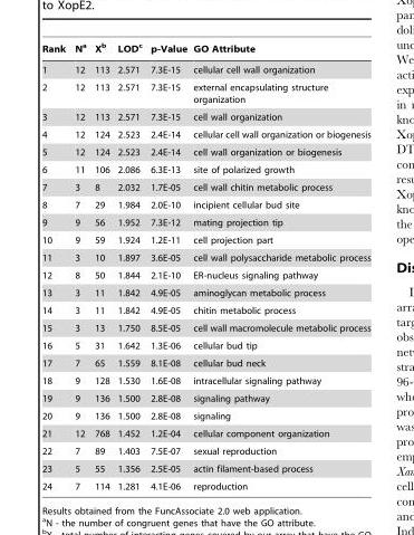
<table><thead><tr><td>Rank</td><td>N<sup>a</sup></td><td>X<sup>b</sup></td><td>LOD<sup>c</sup></td><td>p-Value</td><td>GO Attribute</td></tr></thead><tbody><tr><td>1</td><td>12</td><td>113</td><td>2.571</td><td>7.3E-15</td><td>cellular cell wall organization</td></tr><tr><td>2</td><td>12</td><td>113</td><td>2.571</td><td>7.3E-15</td><td>external encapsulating structure organization</td></tr><tr><td>3</td><td>12</td><td>113</td><td>2.571</td><td>7.3E-15</td><td>cell wall organization</td></tr><tr><td>4</td><td>12</td><td>124</td><td>2.523</td><td>2.4E-14</td><td>cellular cell wall organization or biogenesis</td></tr><tr><td>5</td><td>12</td><td>124</td><td>2.523</td><td>2.4E-14</td><td>cell wall organization or biogenesis</td></tr><tr><td>6</td><td>11</td><td>106</td><td>2.086</td><td>6.3E-13</td><td>site of polarized growth</td></tr><tr><td>7</td><td>3</td><td>8</td><td>2.032</td><td>1.7E-05</td><td>cell wall chitin metabolic process</td></tr><tr><td>8</td><td>7</td><td>29</td><td>1.984</td><td>2.0E-10</td><td>incipient cellular bud site</td></tr><tr><td>9</td><td>9</td><td>56</td><td>1.952</td><td>7.3E-12</td><td>mating projection tip</td></tr><tr><td>10</td><td>9</td><td>59</td><td>1.924</td><td>1.2E-11</td><td>cell projection part</td></tr><tr><td>11</td><td>3</td><td>10</td><td>1.897</td><td>3.6E-05</td><td>cell wall polysaccharide metabolic process</td></tr><tr><td>12</td><td>8</td><td>50</td><td>1.844</td><td>2.1E-10</td><td>ER-nucleus signaling pathway</td></tr><tr><td>13</td><td>3</td><td>11</td><td>1.842</td><td>4.9E-05</td><td>aminoglycan metabolic process</td></tr><tr><td>14</td><td>3</td><td>11</td><td>1.842</td><td>4.9E-05</td><td>chitin metabolic process</td></tr><tr><td>15</td><td>3</td><td>13</td><td>1.750</td><td>8.5E-05</td><td>cell wall macromolecule metabolic process</td></tr><tr><td>16</td><td>5</td><td>31</td><td>1.642</td><td>1.3E-06</td><td>cellular bud tip</td></tr><tr><td>17</td><td>7</td><td>65</td><td>1.559</td><td>8.1E-08</td><td>cellular bud neck</td></tr><tr><td>18</td><td>9</td><td>128</td><td>1.530</td><td>1.6E-08</td><td>intracellular signaling pathway</td></tr><tr><td>19</td><td>9</td><td>136</td><td>1.500</td><td>2.8E-08</td><td>signaling pathway</td></tr><tr><td>20</td><td>9</td><td>136</td><td>1.500</td><td>2.8E-08</td><td>signaling</td></tr><tr><td>21</td><td>12</td><td>768</td><td>1.452</td><td>1.2E-04</td><td>cellular component organization</td></tr><tr><td>22</td><td>7</td><td>89</td><td>1.403</td><td>7.5E-07</td><td>sexual reproduction</td></tr><tr><td>23</td><td>5</td><td>55</td><td>1.356</td><td>2.5E-05</td><td>actin filament-based process</td></tr><tr><td>24</td><td>7</td><td>114</td><td>1.281</td><td>4.1E-06</td><td>reproduction</td></tr></tbody></table>